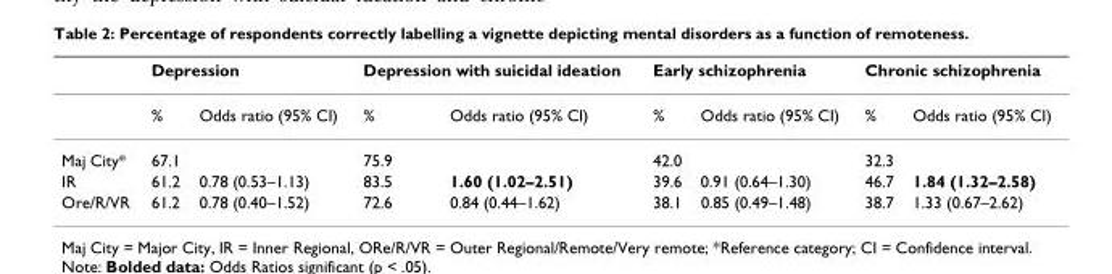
<table><thead><tr><td rowspan="2"></td><td colspan="2">Depression</td><td colspan="2">Depression with suicidal ideation</td><td colspan="2">Early schizophrenia</td><td colspan="2">Chronic schizophrenia</td></tr><tr><td>%</td><td>Odds ratio (95% CI)</td><td>%</td><td>Odds ratio (95% CI)</td><td>%</td><td>Odds ratio (95% CI)</td><td>%</td><td>Odds ratio (95% CI)</td></tr></thead><tbody><tr><td>Maj City*</td><td>67.1</td><td></td><td>75.9</td><td></td><td>42.0</td><td></td><td>32.3</td><td></td></tr><tr><td>IR</td><td>61.2</td><td>0.78 (0.53–1.13)</td><td>83.5</td><td>1.60 (1.02–2.51)</td><td>39.6</td><td>0.91 (0.64–1.30)</td><td>46.7</td><td>1.84 (1.32–2.58)</td></tr><tr><td>Ore/R/VR</td><td>61.2</td><td>0.78 (0.40–1.52)</td><td>72.6</td><td>0.84 (0.44–1.62)</td><td>38.1</td><td>0.85 (0.49–1.48)</td><td>38.7</td><td>1.33 (0.67–2.62)</td></tr></tbody></table>